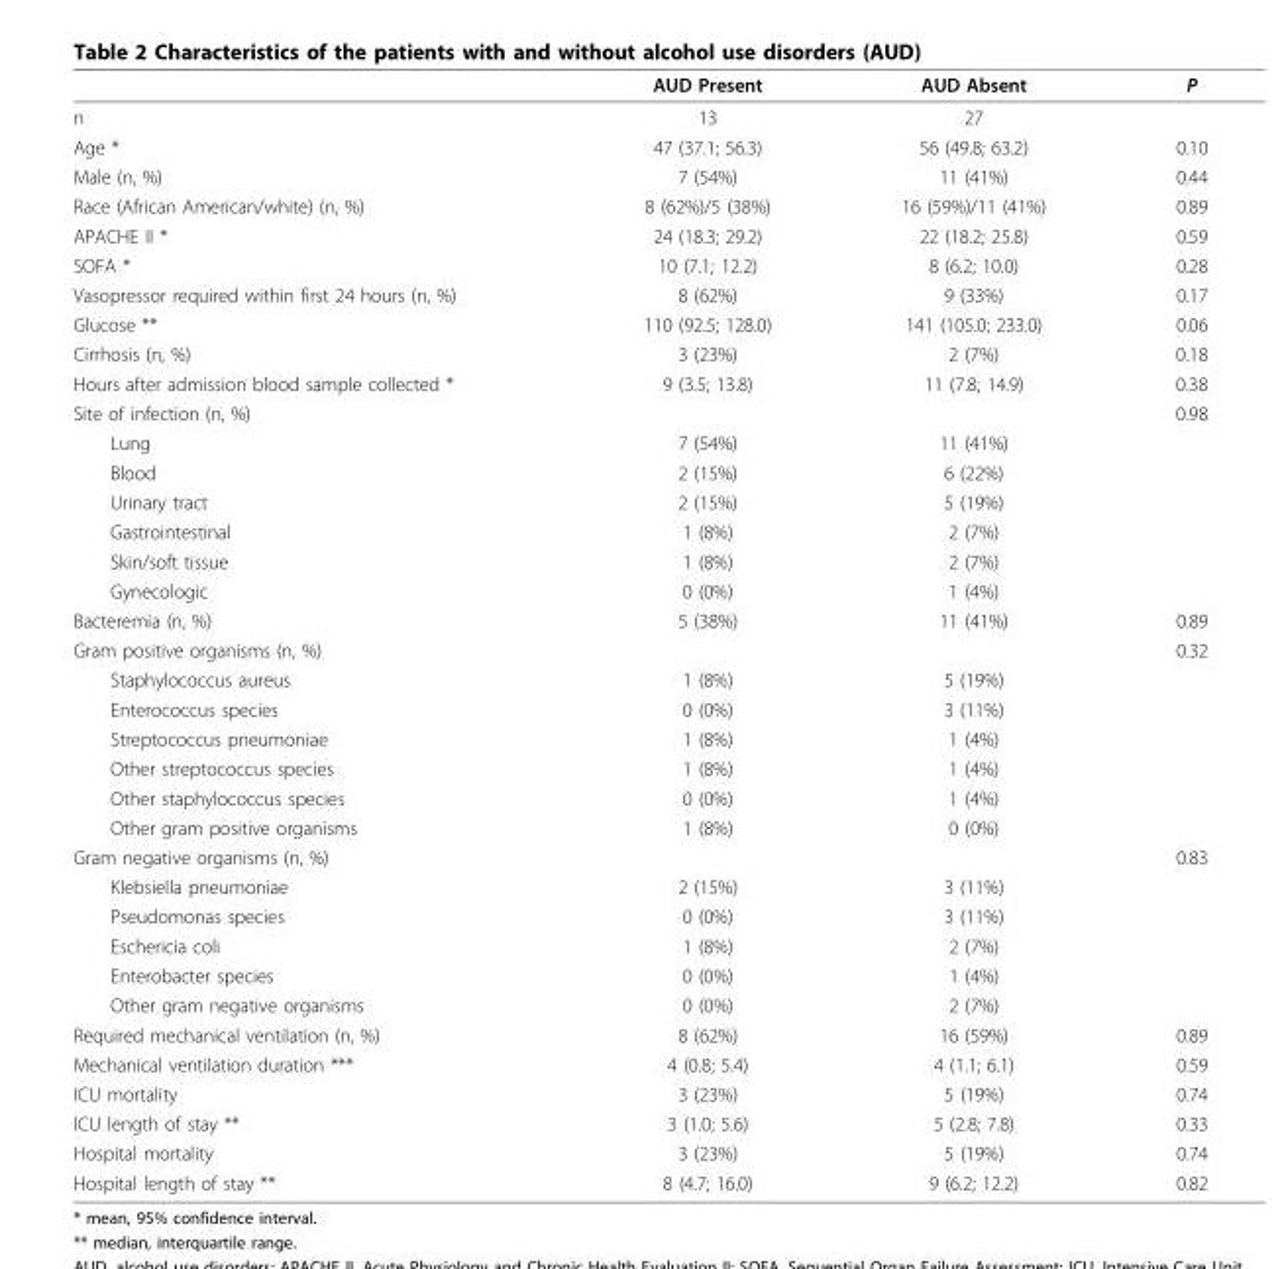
<table><thead><tr><td></td><td>AUD Present</td><td>AUD Absent</td><td>P</td></tr></thead><tbody><tr><td>n</td><td>13</td><td>27</td><td></td></tr><tr><td>Age *</td><td>47 (37.1; 56.3)</td><td>56 (49.8; 63.2)</td><td>0.10</td></tr><tr><td>Male (n, %)</td><td>7 (54%)</td><td>11 (41%)</td><td>0.44</td></tr><tr><td>Race (African American/white) (n, %)</td><td>8 (62%)/5 (38%)</td><td>16 (59%)/11 (41%)</td><td>0.89</td></tr><tr><td>APACHE II *</td><td>24 (18.3; 29.2)</td><td>22 (18.2; 25.8)</td><td>0.59</td></tr><tr><td>SOFA *</td><td>10 (7.1; 12.2)</td><td>8 (6.2; 10.0)</td><td>0.28</td></tr><tr><td>Vasopressor required within first 24 hours (n, %)</td><td>8 (62%)</td><td>9 (33%)</td><td>0.17</td></tr><tr><td>Glucose **</td><td>110 (92.5; 128.0)</td><td>141 (105.0; 233.0)</td><td>0.06</td></tr><tr><td>Cirrhosis (n, %)</td><td>3 (23%)</td><td>2 (7%)</td><td>0.18</td></tr><tr><td>Hours after admission blood sample collected *</td><td>9 (3.5; 13.8)</td><td>11 (7.8; 14.9)</td><td>0.38</td></tr><tr><td>Site of infection (n, %)</td><td></td><td></td><td>0.98</td></tr><tr><td>Lung</td><td>7 (54%)</td><td>11 (41%)</td><td></td></tr><tr><td>Blood</td><td>2 (15%)</td><td>6 (22%)</td><td></td></tr><tr><td>Urinary tract</td><td>2 (15%)</td><td>5 (19%)</td><td></td></tr><tr><td>Gastrointestinal</td><td>1 (8%)</td><td>2 (7%)</td><td></td></tr><tr><td>Skin/soft tissue</td><td>1 (8%)</td><td>2 (7%)</td><td></td></tr><tr><td>Gynecologic</td><td>0 (0%)</td><td>1 (4%)</td><td></td></tr><tr><td>Bacteremia (n, %)</td><td>5 (38%)</td><td>11 (41%)</td><td>0.89</td></tr><tr><td>Gram positive organisms (n, %)</td><td></td><td></td><td>0.32</td></tr><tr><td>Staphylococcus aureus</td><td>1 (8%)</td><td>5 (19%)</td><td></td></tr><tr><td>Enterococcus species</td><td>0 (0%)</td><td>3 (11%)</td><td></td></tr><tr><td>Streptococcus pneumoniae</td><td>1 (8%)</td><td>1 (4%)</td><td></td></tr><tr><td>Other streptococcus species</td><td>1 (8%)</td><td>1 (4%)</td><td></td></tr><tr><td>Other staphylococcus species</td><td>0 (0%)</td><td>1 (4%)</td><td></td></tr><tr><td>Other gram positive organisms</td><td>1 (8%)</td><td>0 (0%)</td><td></td></tr><tr><td>Gram negative organisms (n, %)</td><td></td><td></td><td>0.83</td></tr><tr><td>Klebsiella pneumoniae</td><td>2 (15%)</td><td>3 (11%)</td><td></td></tr><tr><td>Pseudomonas species</td><td>0 (0%)</td><td>3 (11%)</td><td></td></tr><tr><td>Eschericia coli</td><td>1 (8%)</td><td>2 (7%)</td><td></td></tr><tr><td>Enterobacter species</td><td>0 (0%)</td><td>1 (4%)</td><td></td></tr><tr><td>Other gram negative organisms</td><td>0 (0%)</td><td>2 (7%)</td><td></td></tr><tr><td>Required mechanical ventilation (n, %)</td><td>8 (62%)</td><td>16 (59%)</td><td>0.89</td></tr><tr><td>Mechanical ventilation duration ***</td><td>4 (0.8; 5.4)</td><td>4 (1.1; 6.1)</td><td>0.59</td></tr><tr><td>ICU mortality</td><td>3 (23%)</td><td>5 (19%)</td><td>0.74</td></tr><tr><td>ICU length of stay **</td><td>3 (1.0; 5.6)</td><td>5 (2.8; 7.8)</td><td>0.33</td></tr><tr><td>Hospital mortality</td><td>3 (23%)</td><td>5 (19%)</td><td>0.74</td></tr><tr><td>Hospital length of stay **</td><td>8 (4.7; 16.0)</td><td>9 (6.2; 12.2)</td><td>0.82</td></tr></tbody></table>